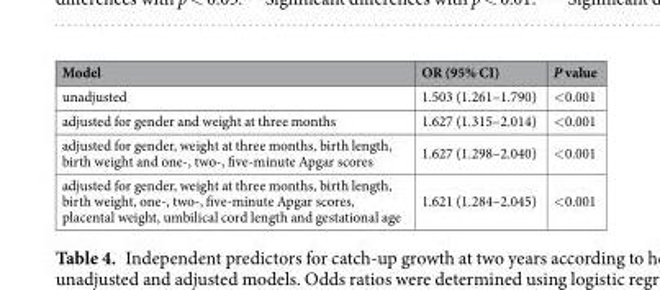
<table><thead><tr><td>Model</td><td>OR (95% CI)</td><td>P value</td></tr></thead><tbody><tr><td>unadjusted</td><td>1.503 (1.261–1.790)</td><td>&lt;0.001</td></tr><tr><td>adjusted for gender and weight at three months</td><td>1.627 (1.315–2.014)</td><td>&lt;0.001</td></tr><tr><td>adjusted for gender, weight at three months, birth length, birth weight and one-, two-, five-minute Apgar scores</td><td>1.627 (1.298–2.040)</td><td>&lt;0.001</td></tr><tr><td>adjusted for gender, weight at three months, birth length, birth weight, one-, two-, five-minute Apgar scores, placental weight, umbilical cord length and gestational age</td><td>1.621 (1.284–2.045)</td><td>&lt;0.001</td></tr></tbody></table>